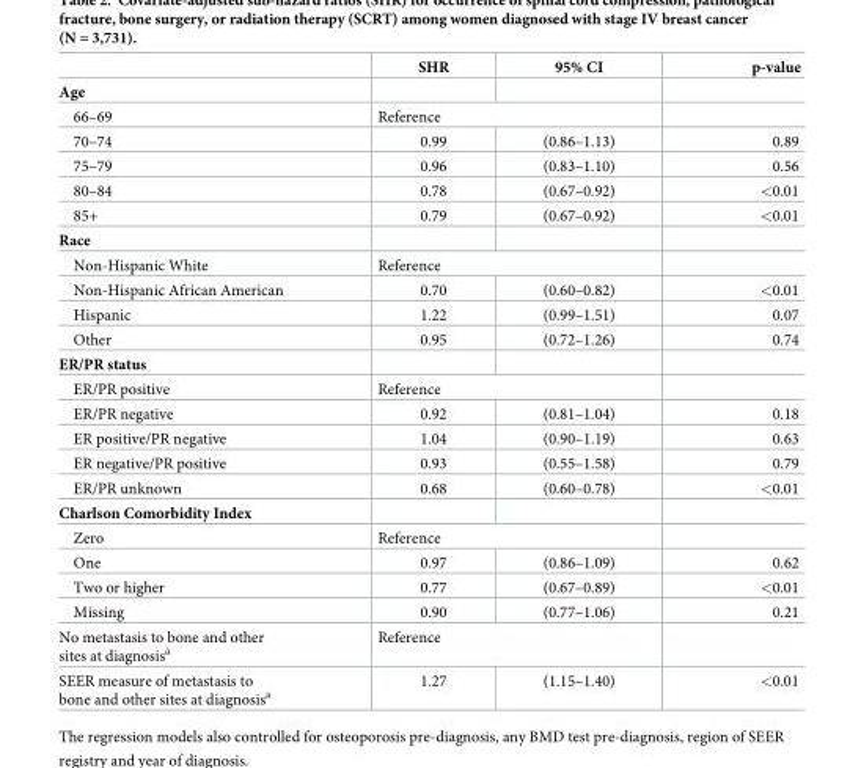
<table><thead><tr><td></td><td>SHR</td><td>95% CI</td><td>p-value</td></tr></thead><tbody><tr><td colspan="4">Age</td></tr><tr><td>66–69</td><td colspan="2">Reference</td><td></td></tr><tr><td>70–74</td><td>0.99</td><td>(0.86–1.13)</td><td>0.89</td></tr><tr><td>75–79</td><td>0.96</td><td>(0.83–1.10)</td><td>0.56</td></tr><tr><td>80–84</td><td>0.78</td><td>(0.67–0.92)</td><td>&lt;0.01</td></tr><tr><td>85+</td><td>0.79</td><td>(0.67–0.92)</td><td>&lt;0.01</td></tr><tr><td colspan="4">Race</td></tr><tr><td>Non-Hispanic White</td><td colspan="2">Reference</td><td></td></tr><tr><td>Non-Hispanic African American</td><td>0.70</td><td>(0.60–0.82)</td><td>&lt;0.01</td></tr><tr><td>Hispanic</td><td>1.22</td><td>(0.99–1.51)</td><td>0.07</td></tr><tr><td>Other</td><td>0.95</td><td>(0.72–1.26)</td><td>0.74</td></tr><tr><td colspan="4">ER/PR status</td></tr><tr><td>ER/PR positive</td><td colspan="2">Reference</td><td></td></tr><tr><td>ER/PR negative</td><td>0.92</td><td>(0.81–1.04)</td><td>0.18</td></tr><tr><td>ER positive/PR negative</td><td>1.04</td><td>(0.90–1.19)</td><td>0.63</td></tr><tr><td>ER negative/PR positive</td><td>0.93</td><td>(0.55–1.58)</td><td>0.79</td></tr><tr><td>ER/PR unknown</td><td>0.68</td><td>(0.60–0.78)</td><td>&lt;0.01</td></tr><tr><td colspan="4">Charlson Comorbidity Index</td></tr><tr><td>Zero</td><td colspan="2">Reference</td><td></td></tr><tr><td>One</td><td>0.97</td><td>(0.86–1.09)</td><td>0.62</td></tr><tr><td>Two or higher</td><td>0.77</td><td>(0.67–0.89)</td><td>&lt;0.01</td></tr><tr><td>Missing</td><td>0.90</td><td>(0.77–1.06)</td><td>0.21</td></tr><tr><td>No metastasis to bone and other sites at diagnosis<sup>a</sup></td><td colspan="2">Reference</td><td></td></tr><tr><td>SEER measure of metastasis to bone and other sites at diagnosis<sup>a</sup></td><td>1.27</td><td>(1.15–1.40)</td><td>&lt;0.01</td></tr></tbody></table>